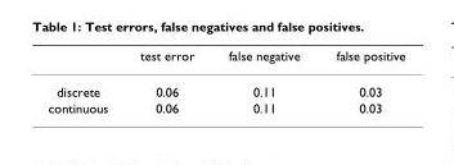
<table><thead><tr><td></td><td>test error</td><td>false negative</td><td>false positive</td></tr></thead><tbody><tr><td>discrete</td><td>0.06</td><td>0.11</td><td>0.03</td></tr><tr><td>continuous</td><td>0.06</td><td>0.11</td><td>0.03</td></tr></tbody></table>